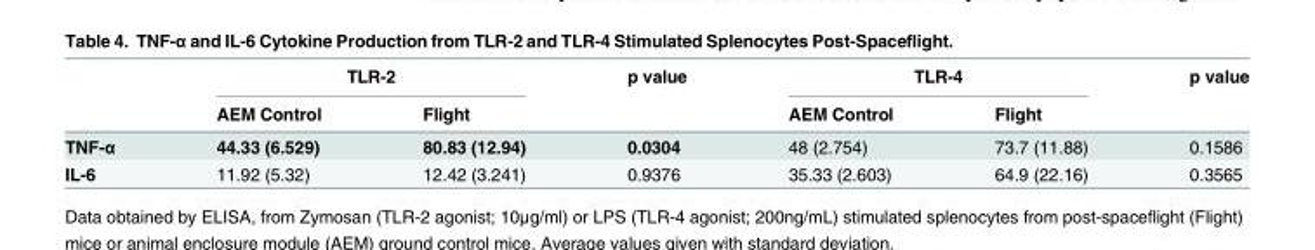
<table><thead><tr><td rowspan="2"></td><td colspan="2">TLR-2</td><td rowspan="2">p value</td><td colspan="2">TLR-4</td><td rowspan="2">p value</td></tr><tr><td>AEM Control</td><td>Flight</td><td>AEM Control</td><td>Flight</td></tr></thead><tbody><tr><td>TNF-α</td><td>44.33 (6.529)</td><td>80.83 (12.94)</td><td>0.0304</td><td>48 (2.754)</td><td>73.7 (11.88)</td><td>0.1586</td></tr><tr><td>IL-6</td><td>11.92 (5.32)</td><td>12.42 (3.241)</td><td>0.9376</td><td>35.33 (2.603)</td><td>64.9 (22.16)</td><td>0.3565</td></tr></tbody></table>